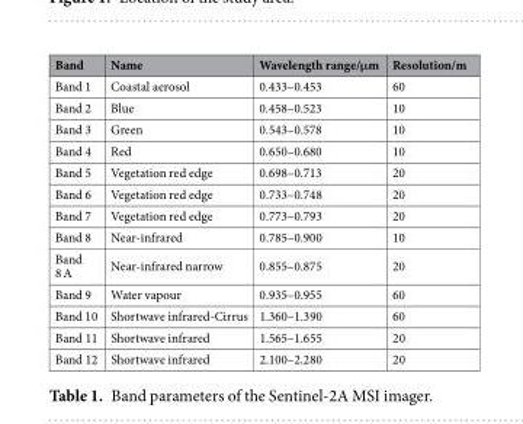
<table><thead><tr><td>Band</td><td>Name</td><td>Wavelength range/μm</td><td>Resolution/m</td></tr></thead><tbody><tr><td>Band 1</td><td>Coastal aerosol</td><td>0.433–0.453</td><td>60</td></tr><tr><td>Band 2</td><td>Blue</td><td>0.458–0.523</td><td>10</td></tr><tr><td>Band 3</td><td>Green</td><td>0.543–0.578</td><td>10</td></tr><tr><td>Band 4</td><td>Red</td><td>0.650–0.680</td><td>10</td></tr><tr><td>Band 5</td><td>Vegetation red edge</td><td>0.698–0.713</td><td>20</td></tr><tr><td>Band 6</td><td>Vegetation red edge</td><td>0.733–0.748</td><td>20</td></tr><tr><td>Band 7</td><td>Vegetation red edge</td><td>0.773–0.793</td><td>20</td></tr><tr><td>Band 8</td><td>Near-infrared</td><td>0.785–0.900</td><td>10</td></tr><tr><td>Band 8 A</td><td>Near-infrared narrow</td><td>0.855–0.875</td><td>20</td></tr><tr><td>Band 9</td><td>Water vapour</td><td>0.935–0.955</td><td>60</td></tr><tr><td>Band 10</td><td>Shortwave infrared-Cirrus</td><td>1.360–1.390</td><td>60</td></tr><tr><td>Band 11</td><td>Shortwave infrared</td><td>1.565–1.655</td><td>20</td></tr><tr><td>Band 12</td><td>Shortwave infrared</td><td>2.100–2.280</td><td>20</td></tr></tbody></table>